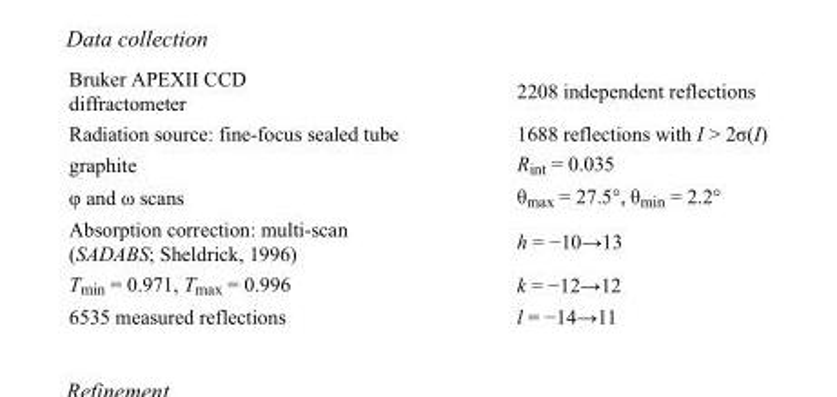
<table><tbody><tr><td>Bruker APEXII CCD diffractometer</td><td>2208 independent reflections</td></tr><tr><td>Radiation source: fine-focus sealed tube</td><td>1688 reflections with I &gt; 2σ(I)</td></tr><tr><td>graphite</td><td>R<sub>int</sub> = 0.035</td></tr><tr><td>φ and ω scans</td><td>θ<sub>max</sub> = 27.5°, θ<sub>min</sub> = 2.2°</td></tr><tr><td>Absorption correction: multi-scan (SADABS; Sheldrick, 1996)</td><td>h = −10→13</td></tr><tr><td>T<sub>min</sub> = 0.971, T<sub>max</sub> = 0.996</td><td>k = −12→12</td></tr><tr><td>6535 measured reflections</td><td>l = −14→11</td></tr></tbody></table>